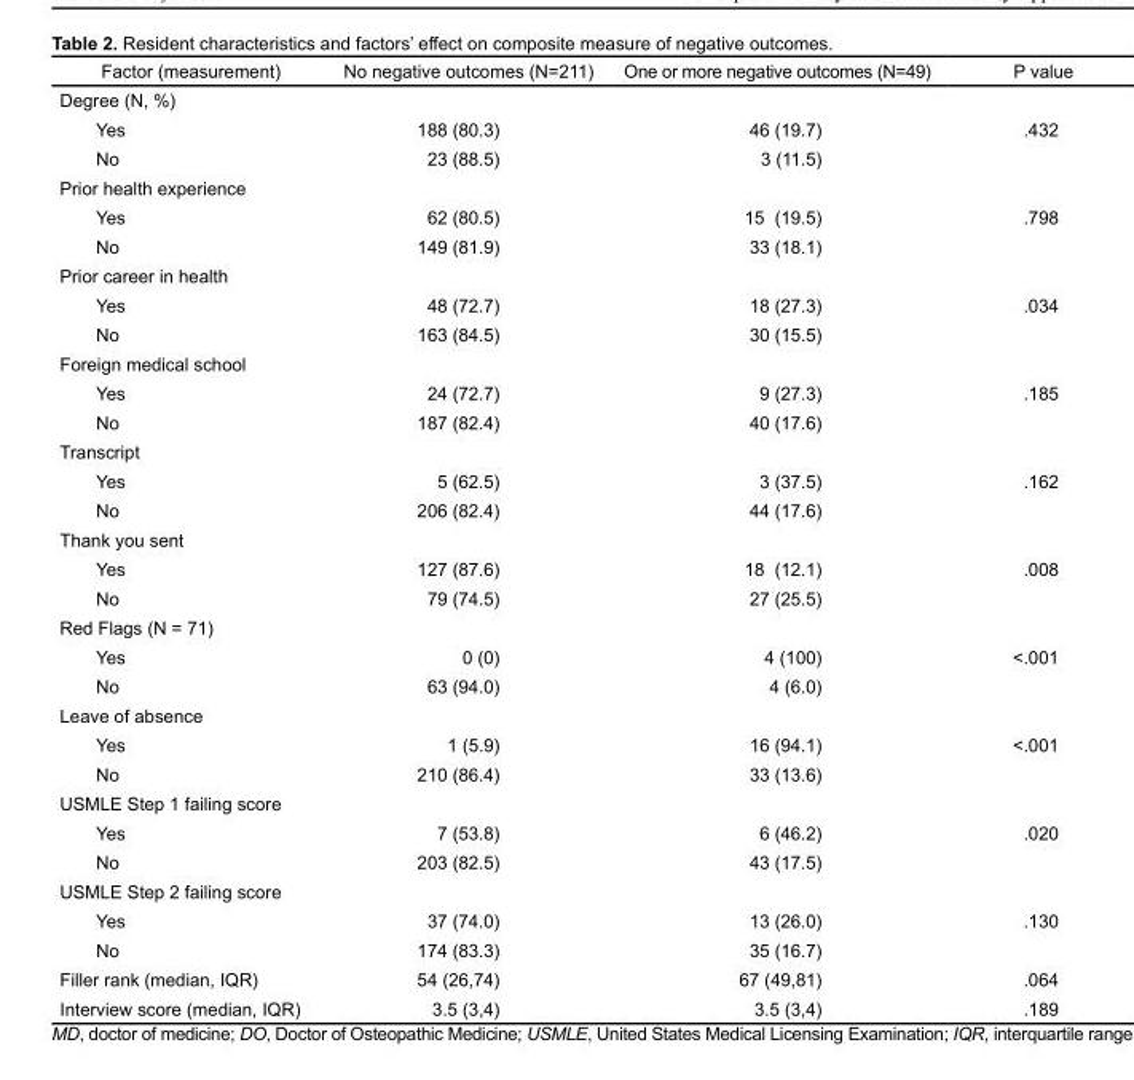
<table><thead><tr><td>Factor (measurement)</td><td>No negative outcomes (N=211)</td><td>One or more negative outcomes (N=49)</td><td>P value</td></tr></thead><tbody><tr><td colspan="4">Degree (N, %)</td></tr><tr><td>Yes</td><td>188 (80.3)</td><td>46 (19.7)</td><td>.432</td></tr><tr><td>No</td><td>23 (88.5)</td><td>3 (11.5)</td><td></td></tr><tr><td colspan="4">Prior health experience</td></tr><tr><td>Yes</td><td>62 (80.5)</td><td>15 (19.5)</td><td>.798</td></tr><tr><td>No</td><td>149 (81.9)</td><td>33 (18.1)</td><td></td></tr><tr><td colspan="4">Prior career in health</td></tr><tr><td>Yes</td><td>48 (72.7)</td><td>18 (27.3)</td><td>.034</td></tr><tr><td>No</td><td>163 (84.5)</td><td>30 (15.5)</td><td></td></tr><tr><td colspan="4">Foreign medical school</td></tr><tr><td>Yes</td><td>24 (72.7)</td><td>9 (27.3)</td><td>.185</td></tr><tr><td>No</td><td>187 (82.4)</td><td>40 (17.6)</td><td></td></tr><tr><td colspan="4">Transcript</td></tr><tr><td>Yes</td><td>5 (62.5)</td><td>3 (37.5)</td><td>.162</td></tr><tr><td>No</td><td>206 (82.4)</td><td>44 (17.6)</td><td></td></tr><tr><td colspan="4">Thank you sent</td></tr><tr><td>Yes</td><td>127 (87.6)</td><td>18 (12.1)</td><td>.008</td></tr><tr><td>No</td><td>79 (74.5)</td><td>27 (25.5)</td><td></td></tr><tr><td colspan="4">Red Flags (N = 71)</td></tr><tr><td>Yes</td><td>0 (0)</td><td>4 (100)</td><td>&lt;.001</td></tr><tr><td>No</td><td>63 (94.0)</td><td>4 (6.0)</td><td></td></tr><tr><td colspan="4">Leave of absence</td></tr><tr><td>Yes</td><td>1 (5.9)</td><td>16 (94.1)</td><td>&lt;.001</td></tr><tr><td>No</td><td>210 (86.4)</td><td>33 (13.6)</td><td></td></tr><tr><td colspan="4">USMLE Step 1 failing score</td></tr><tr><td>Yes</td><td>7 (53.8)</td><td>6 (46.2)</td><td>.020</td></tr><tr><td>No</td><td>203 (82.5)</td><td>43 (17.5)</td><td></td></tr><tr><td colspan="4">USMLE Step 2 failing score</td></tr><tr><td>Yes</td><td>37 (74.0)</td><td>13 (26.0)</td><td>.130</td></tr><tr><td>No</td><td>174 (83.3)</td><td>35 (16.7)</td><td></td></tr><tr><td>Filler rank (median, IQR)</td><td>54 (26,74)</td><td>67 (49,81)</td><td>.064</td></tr><tr><td>Interview score (median, IQR)</td><td>3.5 (3,4)</td><td>3.5 (3,4)</td><td>.189</td></tr></tbody></table>